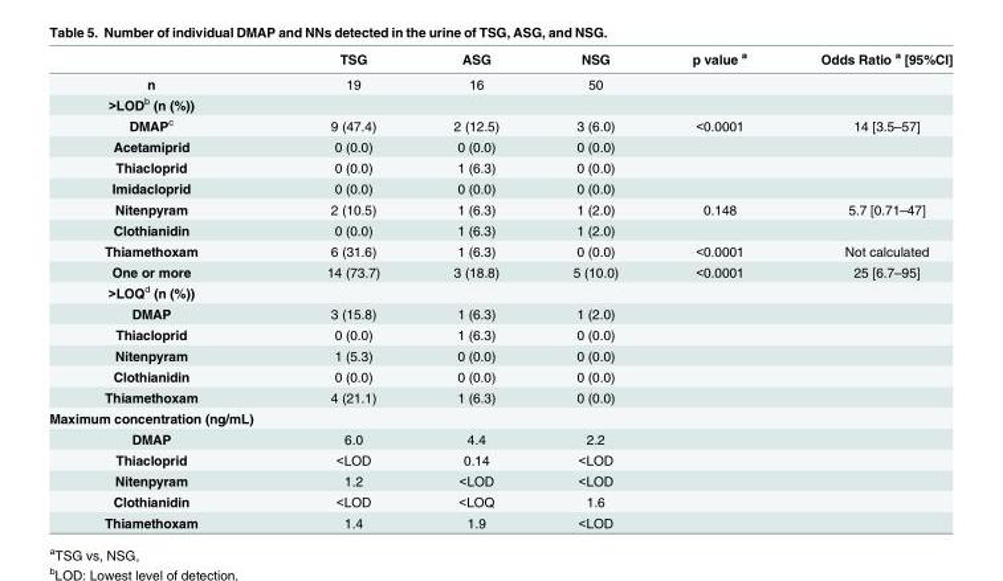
<table><thead><tr><td></td><td>TSG</td><td>ASG</td><td>NSG</td><td>p value <sup>a</sup></td><td>Odds Ratio <sup>a</sup> [95%CI]</td></tr></thead><tbody><tr><td>n</td><td>19</td><td>16</td><td>50</td><td></td><td></td></tr><tr><td colspan="6">&gt;LOD<sup>b</sup> (n (%))</td></tr><tr><td>DMAP<sup>c</sup></td><td>9 (47.4)</td><td>2 (12.5)</td><td>3 (6.0)</td><td>&lt;0.0001</td><td>14 [3.5–57]</td></tr><tr><td>Acetamiprid</td><td>0 (0.0)</td><td>0 (0.0)</td><td>0 (0.0)</td><td></td><td></td></tr><tr><td>Thiacloprid</td><td>0 (0.0)</td><td>1 (6.3)</td><td>0 (0.0)</td><td></td><td></td></tr><tr><td>Imidacloprid</td><td>0 (0.0)</td><td>0 (0.0)</td><td>0 (0.0)</td><td></td><td></td></tr><tr><td>Nitenpyram</td><td>2 (10.5)</td><td>1 (6.3)</td><td>1 (2.0)</td><td>0.148</td><td>5.7 [0.71–47]</td></tr><tr><td>Clothianidin</td><td>0 (0.0)</td><td>1 (6.3)</td><td>1 (2.0)</td><td></td><td></td></tr><tr><td>Thiamethoxam</td><td>6 (31.6)</td><td>1 (6.3)</td><td>0 (0.0)</td><td>&lt;0.0001</td><td>Not calculated</td></tr><tr><td>One or more</td><td>14 (73.7)</td><td>3 (18.8)</td><td>5 (10.0)</td><td>&lt;0.0001</td><td>25 [6.7–95]</td></tr><tr><td colspan="6">&gt;LOQ<sup>d</sup> (n (%))</td></tr><tr><td>DMAP</td><td>3 (15.8)</td><td>1 (6.3)</td><td>1 (2.0)</td><td></td><td></td></tr><tr><td>Thiacloprid</td><td>0 (0.0)</td><td>1 (6.3)</td><td>0 (0.0)</td><td></td><td></td></tr><tr><td>Nitenpyram</td><td>1 (5.3)</td><td>0 (0.0)</td><td>0 (0.0)</td><td></td><td></td></tr><tr><td>Clothianidin</td><td>0 (0.0)</td><td>0 (0.0)</td><td>0 (0.0)</td><td></td><td></td></tr><tr><td>Thiamethoxam</td><td>4 (21.1)</td><td>1 (6.3)</td><td>0 (0.0)</td><td></td><td></td></tr><tr><td colspan="6">Maximum concentration (ng/mL)</td></tr><tr><td>DMAP</td><td>6.0</td><td>4.4</td><td>2.2</td><td></td><td></td></tr><tr><td>Thiacloprid</td><td>&lt;LOD</td><td>0.14</td><td>&lt;LOD</td><td></td><td></td></tr><tr><td>Nitenpyram</td><td>1.2</td><td>&lt;LOD</td><td>&lt;LOD</td><td></td><td></td></tr><tr><td>Clothianidin</td><td>&lt;LOD</td><td>&lt;LOQ</td><td>1.6</td><td></td><td></td></tr><tr><td>Thiamethoxam</td><td>1.4</td><td>1.9</td><td>&lt;LOD</td><td></td><td></td></tr></tbody></table>